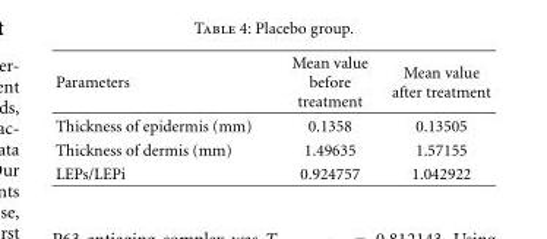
<table><thead><tr><td>Parameters</td><td>Mean value before treatment</td><td>Mean value after treatment</td></tr></thead><tbody><tr><td>Thickness of epidermis (mm)</td><td>0.1358</td><td>0.13505</td></tr><tr><td>Thickness of dermis (mm)</td><td>1.49635</td><td>1.57155</td></tr><tr><td>LEPs/LEPi</td><td>0.924757</td><td>1.042922</td></tr></tbody></table>